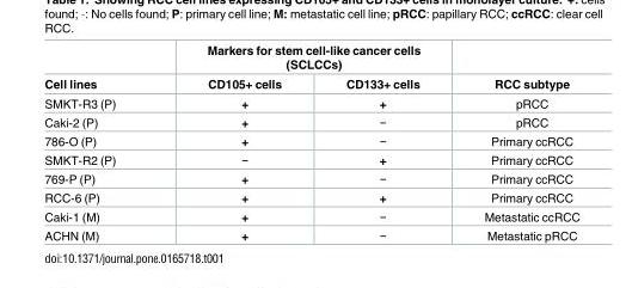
<table><thead><tr><td rowspan="2">Cell lines</td><td colspan="2">Markers for stem cell-like cancer cells (SCLCCs)</td><td rowspan="2">RCC subtype</td></tr><tr><td>CD105+ cells</td><td>CD133+ cells</td></tr></thead><tbody><tr><td>SMKT-R3 (P)</td><td>+</td><td>+</td><td>pRCC</td></tr><tr><td>Caki-2 (P)</td><td>+</td><td>−</td><td>pRCC</td></tr><tr><td>786-O (P)</td><td>+</td><td>−</td><td>Primary ccRCC</td></tr><tr><td>SMKT-R2 (P)</td><td>−</td><td>+</td><td>Primary ccRCC</td></tr><tr><td>769-P (P)</td><td>+</td><td>−</td><td>Primary ccRCC</td></tr><tr><td>RCC-6 (P)</td><td>+</td><td>+</td><td>Primary ccRCC</td></tr><tr><td>Caki-1 (M)</td><td>+</td><td>−</td><td>Metastatic ccRCC</td></tr><tr><td>ACHN (M)</td><td>+</td><td>−</td><td>Metastatic pRCC</td></tr></tbody></table>